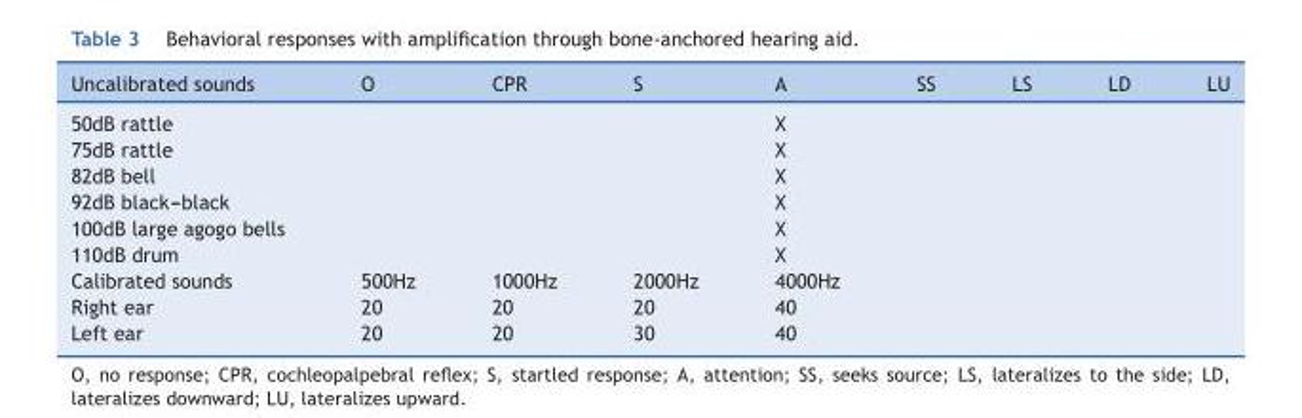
<table><thead><tr><td>Uncalibrated sounds</td><td>O</td><td>CPR</td><td>S</td><td>A</td><td>SS</td><td>LS</td><td>LD</td><td>LU</td></tr></thead><tbody><tr><td>50dB rattle</td><td></td><td></td><td></td><td>X</td><td></td><td></td><td></td><td></td></tr><tr><td>75dB rattle</td><td></td><td></td><td></td><td>X</td><td></td><td></td><td></td><td></td></tr><tr><td>82dB bell</td><td></td><td></td><td></td><td>X</td><td></td><td></td><td></td><td></td></tr><tr><td>92dB black---black</td><td></td><td></td><td></td><td>X</td><td></td><td></td><td></td><td></td></tr><tr><td>100dB large agogo bells</td><td></td><td></td><td></td><td>X</td><td></td><td></td><td></td><td></td></tr><tr><td>110dB drum</td><td></td><td></td><td></td><td>X</td><td></td><td></td><td></td><td></td></tr><tr><td>Calibrated sounds</td><td>500Hz</td><td>1000Hz</td><td>2000Hz</td><td>4000Hz</td><td></td><td></td><td></td><td></td></tr><tr><td>Right ear</td><td>20</td><td>20</td><td>20</td><td>40</td><td></td><td></td><td></td><td></td></tr><tr><td>Left ear</td><td>20</td><td>20</td><td>30</td><td>40</td><td></td><td></td><td></td><td></td></tr></tbody></table>